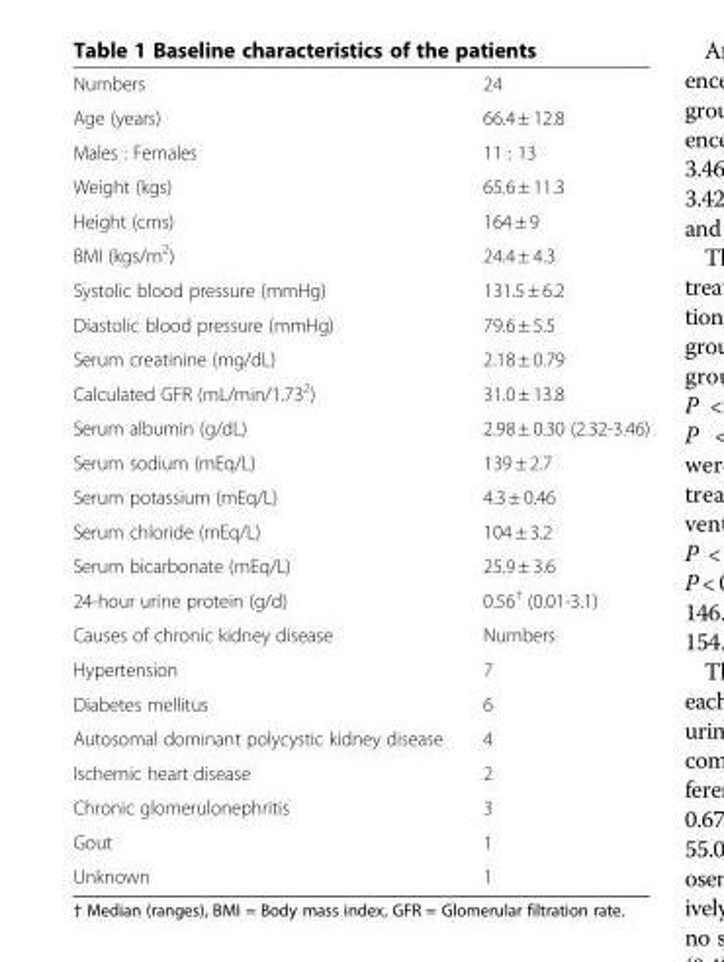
<table><tbody><tr><td>Numbers</td><td>24</td></tr><tr><td>Age (years)</td><td>66.4 ± 12.8</td></tr><tr><td>Males : Females</td><td>11 : 13</td></tr><tr><td>Weight (kgs)</td><td>65.6 ± 11.3</td></tr><tr><td>Height (cms)</td><td>164 ± 9</td></tr><tr><td>BMI (kgs/m<sup>2</sup>)</td><td>24.4 ± 4.3</td></tr><tr><td>Systolic blood pressure (mmHg)</td><td>131.5 ± 6.2</td></tr><tr><td>Diastolic blood pressure (mmHg)</td><td>79.6 ± 5.5</td></tr><tr><td>Serum creatinine (mg/dL)</td><td>2.18 ± 0.79</td></tr><tr><td>Calculated GFR (mL/min/1.73<sup>2</sup>)</td><td>31.0 ± 13.8</td></tr><tr><td>Serum albumin (g/dL)</td><td>2.98 ± 0.30 (2.32-3.46)</td></tr><tr><td>Serum sodium (mEq/L)</td><td>139 ± 2.7</td></tr><tr><td>Serum potassium (mEq/L)</td><td>4.3 ± 0.46</td></tr><tr><td>Serum chloride (mEq/L)</td><td>104 ± 3.2</td></tr><tr><td>Serum bicarbonate (mEq/L)</td><td>25.9 ± 3.6</td></tr><tr><td>24-hour urine protein (g/d)</td><td>0.56<sup>†</sup> (0.01-3.1)</td></tr><tr><td>Causes of chronic kidney disease</td><td>Numbers</td></tr><tr><td>Hypertension</td><td>7</td></tr><tr><td>Diabetes mellitus</td><td>6</td></tr><tr><td>Autosomal dominant polycystic kidney disease</td><td>4</td></tr><tr><td>Ischemic heart disease</td><td>2</td></tr><tr><td>Chronic glomerulonephritis</td><td>3</td></tr><tr><td>Gout</td><td>1</td></tr><tr><td>Unknown</td><td>1</td></tr></tbody></table>